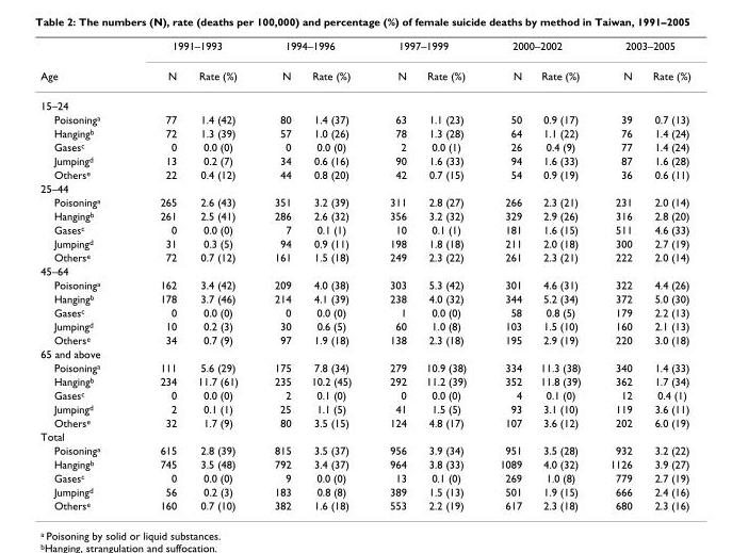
<table><thead><tr><td rowspan="2">Age</td><td colspan="2">1991–1993</td><td colspan="2">1994–1996</td><td colspan="2">1997–1999</td><td colspan="2">2000–2002</td><td colspan="2">2003–2005</td></tr><tr><td>N</td><td>Rate (%)</td><td>N</td><td>Rate (%)</td><td>N</td><td>Rate (%)</td><td>N</td><td>Rate (%)</td><td>N</td><td>Rate (%)</td></tr></thead><tbody><tr><td colspan="11">15–24</td></tr><tr><td>Poisoning<sup>a</sup></td><td>77</td><td>1.4 (42)</td><td>80</td><td>1.4 (37)</td><td>63</td><td>1.1 (23)</td><td>50</td><td>0.9 (17)</td><td>39</td><td>0.7 (13)</td></tr><tr><td>Hanging<sup>b</sup></td><td>72</td><td>1.3 (39)</td><td>57</td><td>1.0 (26)</td><td>78</td><td>1.3 (28)</td><td>64</td><td>1.1 (22)</td><td>76</td><td>1.4 (24)</td></tr><tr><td>Gases<sup>c</sup></td><td>0</td><td>0.0 (0)</td><td>0</td><td>0.0 (0)</td><td>2</td><td>0.0 (1)</td><td>26</td><td>0.4 (9)</td><td>77</td><td>1.4 (24)</td></tr><tr><td>Jumping<sup>d</sup></td><td>13</td><td>0.2 (7)</td><td>34</td><td>0.6 (16)</td><td>90</td><td>1.6 (33)</td><td>94</td><td>1.6 (33)</td><td>87</td><td>1.6 (28)</td></tr><tr><td>Others<sup>e</sup></td><td>22</td><td>0.4 (12)</td><td>44</td><td>0.8 (20)</td><td>42</td><td>0.7 (15)</td><td>54</td><td>0.9 (19)</td><td>36</td><td>0.6 (11)</td></tr><tr><td colspan="11">25–44</td></tr><tr><td>Poisoning<sup>a</sup></td><td>265</td><td>2.6 (43)</td><td>351</td><td>3.2 (39)</td><td>311</td><td>2.8 (27)</td><td>266</td><td>2.3 (21)</td><td>231</td><td>2.0 (14)</td></tr><tr><td>Hanging<sup>b</sup></td><td>261</td><td>2.5 (41)</td><td>286</td><td>2.6 (32)</td><td>356</td><td>3.2 (32)</td><td>329</td><td>2.9 (26)</td><td>316</td><td>2.8 (20)</td></tr><tr><td>Gases<sup>c</sup></td><td>0</td><td>0.0 (0)</td><td>7</td><td>0.1 (1)</td><td>10</td><td>0.1 (1)</td><td>181</td><td>1.6 (15)</td><td>511</td><td>4.6 (33)</td></tr><tr><td>Jumping<sup>d</sup></td><td>31</td><td>0.3 (5)</td><td>94</td><td>0.9 (11)</td><td>198</td><td>1.8 (18)</td><td>211</td><td>2.0 (18)</td><td>300</td><td>2.7 (19)</td></tr><tr><td>Others<sup>e</sup></td><td>72</td><td>0.7 (12)</td><td>161</td><td>1.5 (18)</td><td>249</td><td>2.3 (22)</td><td>261</td><td>2.3 (21)</td><td>222</td><td>2.0 (14)</td></tr><tr><td colspan="11">45–64</td></tr><tr><td>Poisoning<sup>a</sup></td><td>162</td><td>3.4 (42)</td><td>209</td><td>4.0 (38)</td><td>303</td><td>5.3 (42)</td><td>301</td><td>4.6 (31)</td><td>322</td><td>4.4 (26)</td></tr><tr><td>Hanging<sup>b</sup></td><td>178</td><td>3.7 (46)</td><td>214</td><td>4.1 (39)</td><td>238</td><td>4.0 (32)</td><td>344</td><td>5.2 (34)</td><td>372</td><td>5.0 (30)</td></tr><tr><td>Gases<sup>c</sup></td><td>0</td><td>0.0 (0)</td><td>0</td><td>0.0 (0)</td><td>1</td><td>0.0 (0)</td><td>58</td><td>0.8 (5)</td><td>179</td><td>2.2 (13)</td></tr><tr><td>Jumping<sup>d</sup></td><td>10</td><td>0.2 (3)</td><td>30</td><td>0.6 (5)</td><td>60</td><td>1.0 (8)</td><td>103</td><td>1.5 (10)</td><td>160</td><td>2.1 (13)</td></tr><tr><td>Others<sup>e</sup></td><td>34</td><td>0.7 (9)</td><td>97</td><td>1.9 (18)</td><td>138</td><td>2.3 (18)</td><td>195</td><td>2.9 (19)</td><td>220</td><td>3.0 (18)</td></tr><tr><td colspan="11">65 and above</td></tr><tr><td>Poisoning<sup>a</sup></td><td>111</td><td>5.6 (29)</td><td>175</td><td>7.8 (34)</td><td>279</td><td>10.9 (38)</td><td>334</td><td>11.3 (38)</td><td>340</td><td>1.4 (33)</td></tr><tr><td>Hanging<sup>b</sup></td><td>234</td><td>11.7 (61)</td><td>235</td><td>10.2 (45)</td><td>292</td><td>11.2 (39)</td><td>352</td><td>11.8 (39)</td><td>362</td><td>1.7 (34)</td></tr><tr><td>Gases<sup>c</sup></td><td>0</td><td>0.0 (0)</td><td>2</td><td>0.1 (0)</td><td>0</td><td>0.0 (0)</td><td>4</td><td>0.1 (0)</td><td>12</td><td>0.4 (1)</td></tr><tr><td>Jumping<sup>d</sup></td><td>2</td><td>0.1 (1)</td><td>25</td><td>1.1 (5)</td><td>41</td><td>1.5 (5)</td><td>93</td><td>3.1 (10)</td><td>119</td><td>3.6 (11)</td></tr><tr><td>Others<sup>e</sup></td><td>32</td><td>1.7 (9)</td><td>80</td><td>3.5 (15)</td><td>124</td><td>4.8 (17)</td><td>107</td><td>3.6 (12)</td><td>202</td><td>6.0 (19)</td></tr><tr><td colspan="11">Total</td></tr><tr><td>Poisoning<sup>a</sup></td><td>615</td><td>2.8 (39)</td><td>815</td><td>3.5 (37)</td><td>956</td><td>3.9 (34)</td><td>951</td><td>3.5 (28)</td><td>932</td><td>3.2 (22)</td></tr><tr><td>Hanging<sup>b</sup></td><td>745</td><td>3.5 (48)</td><td>792</td><td>3.4 (37)</td><td>964</td><td>3.8 (33)</td><td>1089</td><td>4.0 (32)</td><td>1126</td><td>3.9 (27)</td></tr><tr><td>Gases<sup>c</sup></td><td>0</td><td>0.0 (0)</td><td>9</td><td>0.0 (0)</td><td>13</td><td>0.1 (0)</td><td>269</td><td>1.0 (8)</td><td>779</td><td>2.7 (19)</td></tr><tr><td>Jumping<sup>d</sup></td><td>56</td><td>0.2 (3)</td><td>183</td><td>0.8 (8)</td><td>389</td><td>1.5 (13)</td><td>501</td><td>1.9 (15)</td><td>666</td><td>2.4 (16)</td></tr><tr><td>Others<sup>e</sup></td><td>160</td><td>0.7 (10)</td><td>382</td><td>1.6 (18)</td><td>553</td><td>2.2 (19)</td><td>617</td><td>2.3 (18)</td><td>680</td><td>2.3 (16)</td></tr></tbody></table>